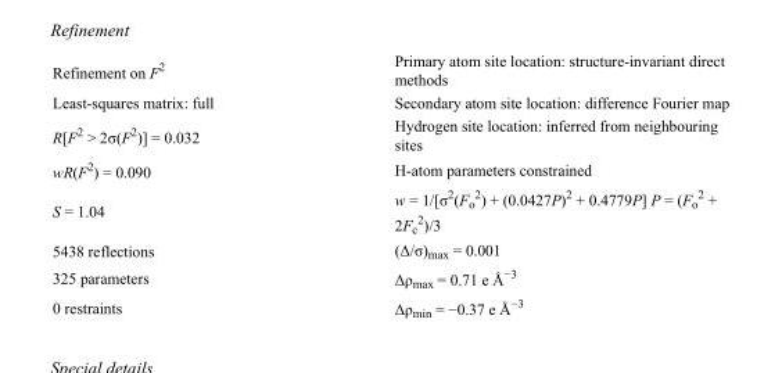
<table><tbody><tr><td>Refinement on F<sup>2</sup></td><td>Primary atom site location: structure-invariant direct methods</td></tr><tr><td>Least-squares matrix: full</td><td>Secondary atom site location: difference Fourier map</td></tr><tr><td>R[F<sup>2</sup> &gt; 2σ(F<sup>2</sup>)] = 0.032</td><td>Hydrogen site location: inferred from neighbouring sites</td></tr><tr><td>wR(F<sup>2</sup>) = 0.090</td><td>H-atom parameters constrained</td></tr><tr><td>S = 1.04</td><td>w = 1/[σ<sup>2</sup>(F<sub>o</sub> <sup>2</sup>) + (0.0427P)<sup>2</sup> + 0.4779P] P = (F<sub>o</sub> <sup>2</sup> + 2F<sub>c</sub> <sup>2</sup>)/3</td></tr><tr><td>5438 reflections</td><td>(Δ/σ)<sub>max</sub> = 0.001</td></tr><tr><td>325 parameters</td><td>Δρ<sub>max</sub> = 0.71 e Å<sup>−3</sup></td></tr><tr><td>0 restraints</td><td>Δρ<sub>min</sub> = −0.37 e Å<sup>−3</sup></td></tr></tbody></table>